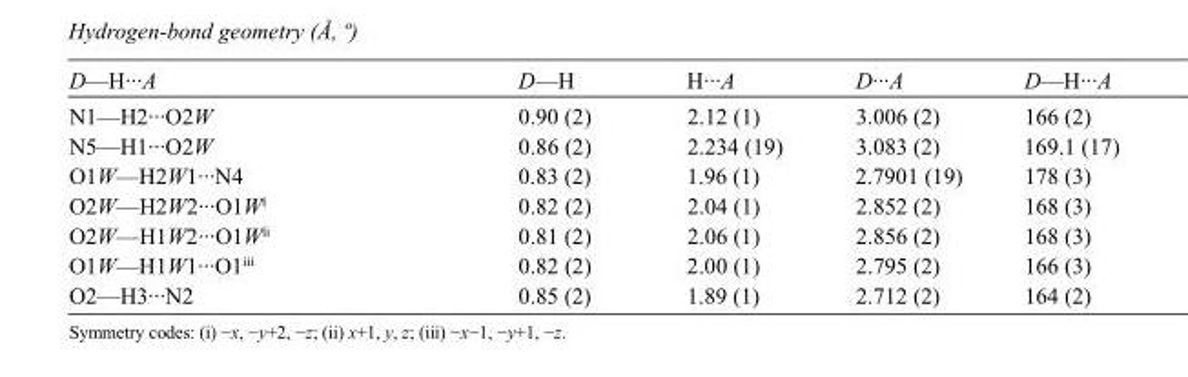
<table><tbody><tr><td>D—H···A</td><td>D—H</td><td>H···A</td><td>D···A</td><td>D—H···A</td></tr><tr><td>N1—H2···O2W</td><td>0.90 (2)</td><td>2.12 (1)</td><td>3.006 (2)</td><td>166 (2)</td></tr><tr><td>N5—H1···O2W</td><td>0.86 (2)</td><td>2.234 (19)</td><td>3.083 (2)</td><td>169.1 (17)</td></tr><tr><td>O1W—H2W1···N4</td><td>0.83 (2)</td><td>1.96 (1)</td><td>2.7901 (19)</td><td>178 (3)</td></tr><tr><td>O2W—H2W2···O1W<sup>i</sup></td><td>0.82 (2)</td><td>2.04 (1)</td><td>2.852 (2)</td><td>168 (3)</td></tr><tr><td>O2W—H1W2···O1W<sup>ii</sup></td><td>0.81 (2)</td><td>2.06 (1)</td><td>2.856 (2)</td><td>168 (3)</td></tr><tr><td>O1W—H1W1···O1<sup>iii</sup></td><td>0.82 (2)</td><td>2.00 (1)</td><td>2.795 (2)</td><td>166 (3)</td></tr><tr><td>O2—H3···N2</td><td>0.85 (2)</td><td>1.89 (1)</td><td>2.712 (2)</td><td>164 (2)</td></tr></tbody></table>